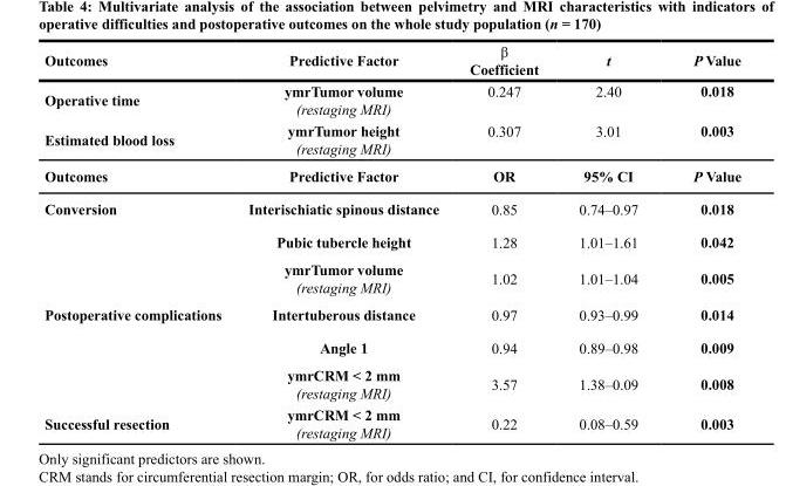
<table><thead><tr><td>Outcomes</td><td>Predictive Factor</td><td>β Coefficient</td><td>t</td><td>P Value</td></tr></thead><tbody><tr><td>Operative time</td><td>ymrTumor volume (restaging MRI)</td><td>0.247</td><td>2.40</td><td>0.018</td></tr><tr><td>Estimated blood loss</td><td>ymrTumor height (restaging MRI)</td><td>0.307</td><td>3.01</td><td>0.003</td></tr><tr><td>Outcomes</td><td>Predictive Factor</td><td>OR</td><td>95% CI</td><td>P Value</td></tr><tr><td rowspan="3">Conversion</td><td>Interischiatic spinous distance</td><td>0.85</td><td>0.74–0.97</td><td>0.018</td></tr><tr><td>Pubic tubercle height</td><td>1.28</td><td>1.01–1.61</td><td>0.042</td></tr><tr><td>ymrTumor volume (restaging MRI)</td><td>1.02</td><td>1.01–1.04</td><td>0.005</td></tr><tr><td rowspan="3">Postoperative complications</td><td>Intertuberous distance</td><td>0.97</td><td>0.93–0.99</td><td>0.014</td></tr><tr><td>Angle 1</td><td>0.94</td><td>0.89–0.98</td><td>0.009</td></tr><tr><td>ymrCRM &lt; 2 mm (restaging MRI)</td><td>3.57</td><td>1.38–0.09</td><td>0.008</td></tr><tr><td>Successful resection</td><td>ymrCRM &lt; 2 mm (restaging MRI)</td><td>0.22</td><td>0.08–0.59</td><td>0.003</td></tr></tbody></table>